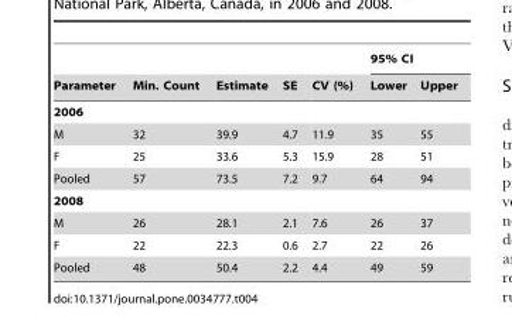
<table><thead><tr><td rowspan="2">Parameter</td><td rowspan="2">Min. Count</td><td rowspan="2">Estimate</td><td rowspan="2">SE</td><td rowspan="2">CV (%)</td><td colspan="2">95% CI</td></tr><tr><td>Lower</td><td>Upper</td></tr></thead><tbody><tr><td colspan="7">2006</td></tr><tr><td>M</td><td>32</td><td>39.9</td><td>4.7</td><td>11.9</td><td>35</td><td>55</td></tr><tr><td>F</td><td>25</td><td>33.6</td><td>5.3</td><td>15.9</td><td>28</td><td>51</td></tr><tr><td>Pooled</td><td>57</td><td>73.5</td><td>7.2</td><td>9.7</td><td>64</td><td>94</td></tr><tr><td colspan="7">2008</td></tr><tr><td>M</td><td>26</td><td>28.1</td><td>2.1</td><td>7.6</td><td>26</td><td>37</td></tr><tr><td>F</td><td>22</td><td>22.3</td><td>0.6</td><td>2.7</td><td>22</td><td>26</td></tr><tr><td>Pooled</td><td>48</td><td>50.4</td><td>2.2</td><td>4.4</td><td>49</td><td>59</td></tr></tbody></table>